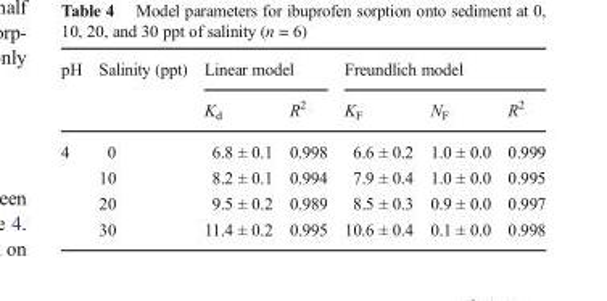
<table><thead><tr><td rowspan="2">pH</td><td rowspan="2">Salinity (ppt)</td><td colspan="2">Linear model</td><td colspan="3">Freundlich model</td></tr><tr><td>K<sub>d</sub></td><td>R<sup>2</sup></td><td>K<sub>F</sub></td><td>N<sub>F</sub></td><td>R<sup>2</sup></td></tr></thead><tbody><tr><td rowspan="4">4</td><td>0</td><td>6.8 ± 0.1</td><td>0.998</td><td>6.6 ± 0.2</td><td>1.0 ± 0.0</td><td>0.999</td></tr><tr><td>10</td><td>8.2 ± 0.1</td><td>0.994</td><td>7.9 ± 0.4</td><td>1.0 ± 0.0</td><td>0.995</td></tr><tr><td>20</td><td>9.5 ± 0.2</td><td>0.989</td><td>8.5 ± 0.3</td><td>0.9 ± 0.0</td><td>0.997</td></tr><tr><td>30</td><td>11.4 ± 0.2</td><td>0.995</td><td>10.6 ± 0.4</td><td>0.1 ± 0.0</td><td>0.998</td></tr></tbody></table>